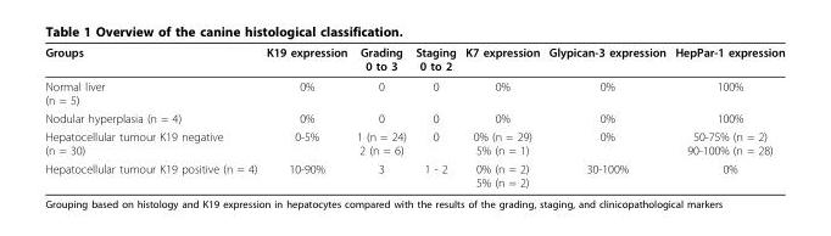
<table><thead><tr><td>Groups</td><td>K19 expression</td><td>Grading 0 to 3</td><td>Staging 0 to 2</td><td>K7 expression</td><td>Glypican-3 expression</td><td>HepPar-1 expression</td></tr></thead><tbody><tr><td>Normal liver (n = 5)</td><td>0%</td><td>0</td><td>0</td><td>0%</td><td>0%</td><td>100%</td></tr><tr><td>Nodular hyperplasia (n = 4)</td><td>0%</td><td>0</td><td>0</td><td>0%</td><td>0%</td><td>100%</td></tr><tr><td>Hepatocellular tumour K19 negative (n = 30)</td><td>0-5%</td><td>1 (n = 24) 2 (n = 6)</td><td>0</td><td>0% (n = 29) 5% (n = 1)</td><td>0%</td><td>50-75% (n = 2) 90-100% (n = 28)</td></tr><tr><td>Hepatocellular tumour K19 positive (n = 4)</td><td>10-90%</td><td>3</td><td>1 - 2</td><td>0% (n = 2) 5% (n = 2)</td><td>30-100%</td><td>0%</td></tr></tbody></table>